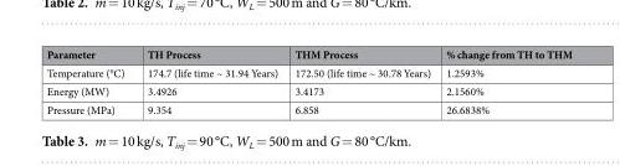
<table><thead><tr><td>Parameter</td><td>TH Process</td><td>THM Process</td><td>% change from TH to THM</td></tr></thead><tbody><tr><td>Temperature (°C)</td><td>174.7 (life time ~ 31.94 Years)</td><td>172.50 (life time ~ 30.78 Years)</td><td>1.2593%</td></tr><tr><td>Energy (MW)</td><td>3.4926</td><td>3.4173</td><td>2.1560%</td></tr><tr><td>Pressure (MPa)</td><td>9.354</td><td>6.858</td><td>26.6838%</td></tr></tbody></table>